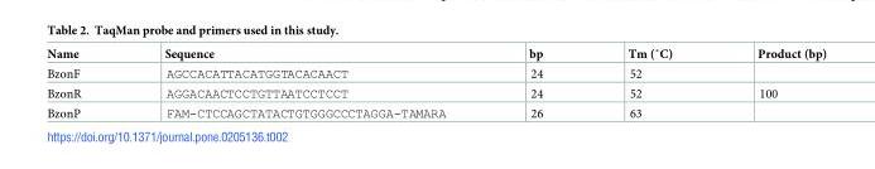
<table><thead><tr><td>Name</td><td>Sequence</td><td>bp</td><td>Tm (˚C)</td><td>Product (bp)</td></tr></thead><tbody><tr><td>BzonF</td><td>AGCCACATTACATGGTACACAACT</td><td>24</td><td>52</td><td></td></tr><tr><td>BzonR</td><td>AGGACAACTCCTGTTAATCCTCCT</td><td>24</td><td>52</td><td>100</td></tr><tr><td>BzonP</td><td>FAM-CTCCAGCTATACTGTGGGCCCTAGGA-TAMARA</td><td>26</td><td>63</td><td></td></tr></tbody></table>